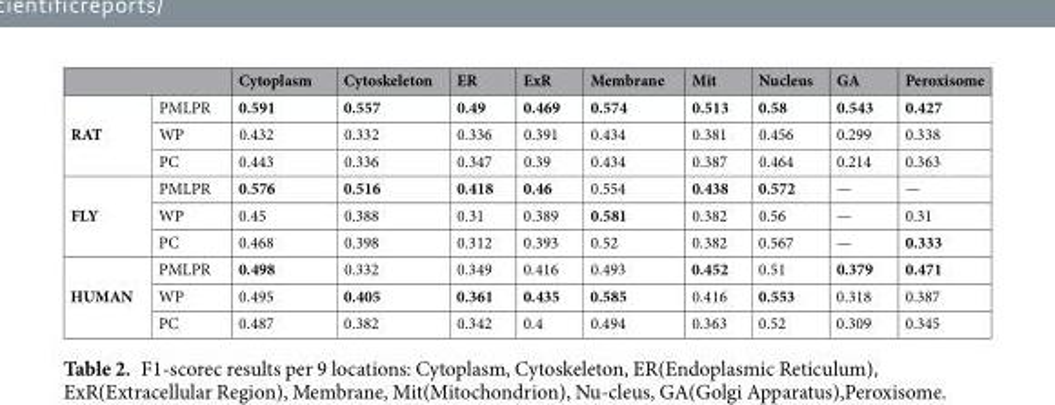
<table><thead><tr><td></td><td></td><td>Cytoplasm</td><td>Cytoskeleton</td><td>ER</td><td>ExR</td><td>Membrane</td><td>Mit</td><td>Nucleus</td><td>GA</td><td>Peroxisome</td></tr></thead><tbody><tr><td rowspan="3">RAT</td><td>PMLPR</td><td>0.591</td><td>0.557</td><td>0.49</td><td>0.469</td><td>0.574</td><td>0.513</td><td>0.58</td><td>0.543</td><td>0.427</td></tr><tr><td>WP</td><td>0.432</td><td>0.332</td><td>0.336</td><td>0.391</td><td>0.434</td><td>0.381</td><td>0.456</td><td>0.299</td><td>0.338</td></tr><tr><td>PC</td><td>0.443</td><td>0.336</td><td>0.347</td><td>0.39</td><td>0.434</td><td>0.387</td><td>0.464</td><td>0.214</td><td>0.363</td></tr><tr><td rowspan="3">FLY</td><td>PMLPR</td><td>0.576</td><td>0.516</td><td>0.418</td><td>0.46</td><td>0.554</td><td>0.438</td><td>0.572</td><td>—</td><td>—</td></tr><tr><td>WP</td><td>0.45</td><td>0.388</td><td>0.31</td><td>0.389</td><td>0.581</td><td>0.382</td><td>0.56</td><td>—</td><td>0.31</td></tr><tr><td>PC</td><td>0.468</td><td>0.398</td><td>0.312</td><td>0.393</td><td>0.52</td><td>0.382</td><td>0.567</td><td>—</td><td>0.333</td></tr><tr><td rowspan="3">HUMAN</td><td>PMLPR</td><td>0.498</td><td>0.332</td><td>0.349</td><td>0.416</td><td>0.493</td><td>0.452</td><td>0.51</td><td>0.379</td><td>0.471</td></tr><tr><td>WP</td><td>0.495</td><td>0.405</td><td>0.361</td><td>0.435</td><td>0.585</td><td>0.416</td><td>0.553</td><td>0.318</td><td>0.387</td></tr><tr><td>PC</td><td>0.487</td><td>0.382</td><td>0.342</td><td>0.4</td><td>0.494</td><td>0.363</td><td>0.52</td><td>0.309</td><td>0.345</td></tr></tbody></table>